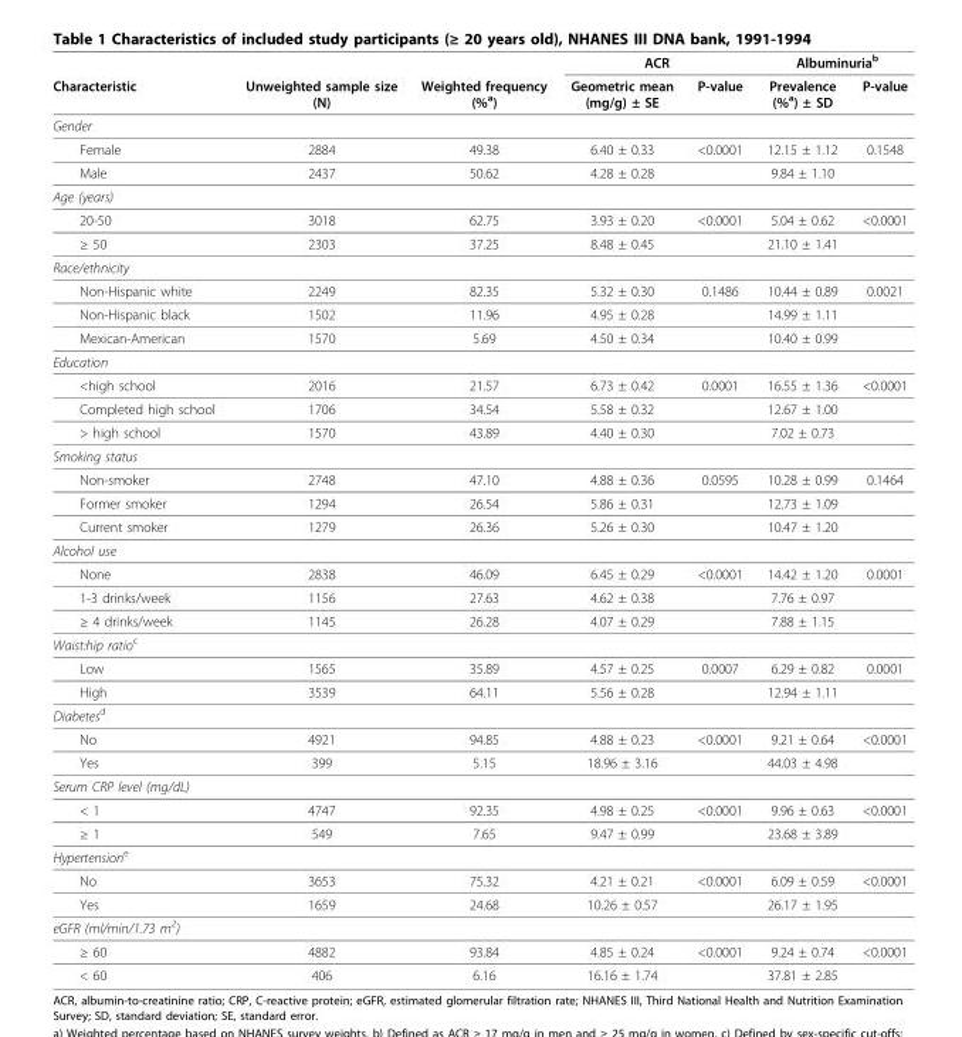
<table><thead><tr><td rowspan="2">Characteristic</td><td rowspan="2">Unweighted sample size (N)</td><td rowspan="2">Weighted frequency (%<sup>a</sup>)</td><td colspan="2">ACR</td><td colspan="2">Albuminuria<sup>b</sup></td></tr><tr><td>Geometric mean (mg/g) ± SE</td><td>P-value</td><td>Prevalence (%<sup>a</sup>) ± SD</td><td>P-value</td></tr></thead><tbody><tr><td colspan="7">Gender</td></tr><tr><td>Female</td><td>2884</td><td>49.38</td><td>6.40 ± 0.33</td><td>&lt;0.0001</td><td>12.15 ± 1.12</td><td>0.1548</td></tr><tr><td>Male</td><td>2437</td><td>50.62</td><td>4.28 ± 0.28</td><td></td><td>9.84 ± 1.10</td><td></td></tr><tr><td colspan="7">Age (years)</td></tr><tr><td>20-50</td><td>3018</td><td>62.75</td><td>3.93 ± 0.20</td><td>&lt;0.0001</td><td>5.04 ± 0.62</td><td>&lt;0.0001</td></tr><tr><td>≥ 50</td><td>2303</td><td>37.25</td><td>8.48 ± 0.45</td><td></td><td>21.10 ± 1.41</td><td></td></tr><tr><td colspan="7">Race/ethnicity</td></tr><tr><td>Non-Hispanic white</td><td>2249</td><td>82.35</td><td>5.32 ± 0.30</td><td>0.1486</td><td>10.44 ± 0.89</td><td>0.0021</td></tr><tr><td>Non-Hispanic black</td><td>1502</td><td>11.96</td><td>4.95 ± 0.28</td><td></td><td>14.99 ± 1.11</td><td></td></tr><tr><td>Mexican-American</td><td>1570</td><td>5.69</td><td>4.50 ± 0.34</td><td></td><td>10.40 ± 0.99</td><td></td></tr><tr><td colspan="7">Education</td></tr><tr><td>&lt;high school</td><td>2016</td><td>21.57</td><td>6.73 ± 0.42</td><td>0.0001</td><td>16.55 ± 1.36</td><td>&lt;0.0001</td></tr><tr><td>Completed high school</td><td>1706</td><td>34.54</td><td>5.58 ± 0.32</td><td></td><td>12.67 ± 1.00</td><td></td></tr><tr><td>&gt; high school</td><td>1570</td><td>43.89</td><td>4.40 ± 0.30</td><td></td><td>7.02 ± 0.73</td><td></td></tr><tr><td colspan="7">Smoking status</td></tr><tr><td>Non-smoker</td><td>2748</td><td>47.10</td><td>4.88 ± 0.36</td><td>0.0595</td><td>10.28 ± 0.99</td><td>0.1464</td></tr><tr><td>Former smoker</td><td>1294</td><td>26.54</td><td>5.86 ± 0.31</td><td></td><td>12.73 ± 1.09</td><td></td></tr><tr><td>Current smoker</td><td>1279</td><td>26.36</td><td>5.26 ± 0.30</td><td></td><td>10.47 ± 1.20</td><td></td></tr><tr><td colspan="7">Alcohol use</td></tr><tr><td>None</td><td>2838</td><td>46.09</td><td>6.45 ± 0.29</td><td>&lt;0.0001</td><td>14.42 ± 1.20</td><td>0.0001</td></tr><tr><td>1-3 drinks/week</td><td>1156</td><td>27.63</td><td>4.62 ± 0.38</td><td></td><td>7.76 ± 0.97</td><td></td></tr><tr><td>≥ 4 drinks/week</td><td>1145</td><td>26.28</td><td>4.07 ± 0.29</td><td></td><td>7.88 ± 1.15</td><td></td></tr><tr><td colspan="7">Waist:hip ratio<sup>c</sup></td></tr><tr><td>Low</td><td>1565</td><td>35.89</td><td>4.57 ± 0.25</td><td>0.0007</td><td>6.29 ± 0.82</td><td>0.0001</td></tr><tr><td>High</td><td>3539</td><td>64.11</td><td>5.56 ± 0.28</td><td></td><td>12.94 ± 1.11</td><td></td></tr><tr><td colspan="7">Diabetes<sup>d</sup></td></tr><tr><td>No</td><td>4921</td><td>94.85</td><td>4.88 ± 0.23</td><td>&lt;0.0001</td><td>9.21 ± 0.64</td><td>&lt;0.0001</td></tr><tr><td>Yes</td><td>399</td><td>5.15</td><td>18.96 ± 3.16</td><td></td><td>44.03 ± 4.98</td><td></td></tr><tr><td colspan="7">Serum CRP level (mg/dL)</td></tr><tr><td>&lt; 1</td><td>4747</td><td>92.35</td><td>4.98 ± 0.25</td><td>&lt;0.0001</td><td>9.96 ± 0.63</td><td>&lt;0.0001</td></tr><tr><td>≥ 1</td><td>549</td><td>7.65</td><td>9.47 ± 0.99</td><td></td><td>23.68 ± 3.89</td><td></td></tr><tr><td colspan="7">Hypertension<sup>e</sup></td></tr><tr><td>No</td><td>3653</td><td>75.32</td><td>4.21 ± 0.21</td><td>&lt;0.0001</td><td>6.09 ± 0.59</td><td>&lt;0.0001</td></tr><tr><td>Yes</td><td>1659</td><td>24.68</td><td>10.26 ± 0.57</td><td></td><td>26.17 ± 1.95</td><td></td></tr><tr><td colspan="7">eGFR (ml/min/1.73 m<sup>2</sup>)</td></tr><tr><td>≥ 60</td><td>4882</td><td>93.84</td><td>4.85 ± 0.24</td><td>&lt;0.0001</td><td>9.24 ± 0.74</td><td>&lt;0.0001</td></tr><tr><td>&lt; 60</td><td>406</td><td>6.16</td><td>16.16 ± 1.74</td><td></td><td>37.81 ± 2.85</td><td></td></tr></tbody></table>